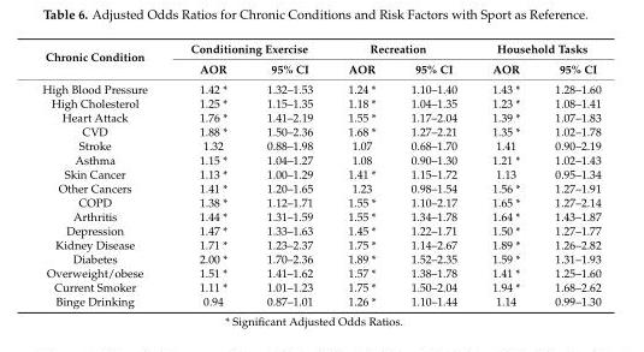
<table><thead><tr><td rowspan="2">Chronic Condition</td><td colspan="2">Conditioning Exercise</td><td colspan="2">Recreation</td><td colspan="2">Household Tasks</td></tr><tr><td>AOR</td><td>95% CI</td><td>AOR</td><td>95% CI</td><td>AOR</td><td>95% CI</td></tr></thead><tbody><tr><td>High Blood Pressure</td><td>1.42 *</td><td>1.32–1.53</td><td>1.24 *</td><td>1.10–1.40</td><td>1.43 *</td><td>1.28–1.60</td></tr><tr><td>High Cholesterol</td><td>1.25 *</td><td>1.15–1.35</td><td>1.18 *</td><td>1.04–1.35</td><td>1.23 *</td><td>1.08–1.41</td></tr><tr><td>Heart Attack</td><td>1.76 *</td><td>1.41–2.19</td><td>1.55 *</td><td>1.17–2.04</td><td>1.39 *</td><td>1.07–1.83</td></tr><tr><td>CVD</td><td>1.88 *</td><td>1.50–2.36</td><td>1.68 *</td><td>1.27–2.21</td><td>1.35 *</td><td>1.02–1.78</td></tr><tr><td>Stroke</td><td>1.32</td><td>0.88–1.98</td><td>1.07</td><td>0.68–1.70</td><td>1.41</td><td>0.90–2.19</td></tr><tr><td>Asthma</td><td>1.15 *</td><td>1.04–1.27</td><td>1.08</td><td>0.90–1.30</td><td>1.21 *</td><td>1.02–1.43</td></tr><tr><td>Skin Cancer</td><td>1.13 *</td><td>1.00–1.29</td><td>1.41 *</td><td>1.15–1.72</td><td>1.13</td><td>0.95–1.34</td></tr><tr><td>Other Cancers</td><td>1.41 *</td><td>1.20–1.65</td><td>1.23</td><td>0.98–1.54</td><td>1.56 *</td><td>1.27–1.91</td></tr><tr><td>COPD</td><td>1.38 *</td><td>1.12–1.71</td><td>1.55 *</td><td>1.10–2.17</td><td>1.65 *</td><td>1.27–2.14</td></tr><tr><td>Arthritis</td><td>1.44 *</td><td>1.31–1.59</td><td>1.55 *</td><td>1.34–1.78</td><td>1.64 *</td><td>1.43–1.87</td></tr><tr><td>Depression</td><td>1.47 *</td><td>1.33–1.63</td><td>1.45 *</td><td>1.22–1.71</td><td>1.50 *</td><td>1.27–1.77</td></tr><tr><td>Kidney Disease</td><td>1.71 *</td><td>1.23–2.37</td><td>1.75 *</td><td>1.14–2.67</td><td>1.89 *</td><td>1.26–2.82</td></tr><tr><td>Diabetes</td><td>2.00 *</td><td>1.70–2.36</td><td>1.89 *</td><td>1.52–2.35</td><td>1.59 *</td><td>1.31–1.93</td></tr><tr><td>Overweight/obese</td><td>1.51 *</td><td>1.41–1.62</td><td>1.57 *</td><td>1.38–1.78</td><td>1.41 *</td><td>1.25–1.60</td></tr><tr><td>Current Smoker</td><td>1.11 *</td><td>1.01–1.23</td><td>1.75 *</td><td>1.50–2.04</td><td>1.94 *</td><td>1.68–2.62</td></tr><tr><td>Binge Drinking</td><td>0.94</td><td>0.87–1.01</td><td>1.26 *</td><td>1.10–1.44</td><td>1.14</td><td>0.99–1.30</td></tr></tbody></table>